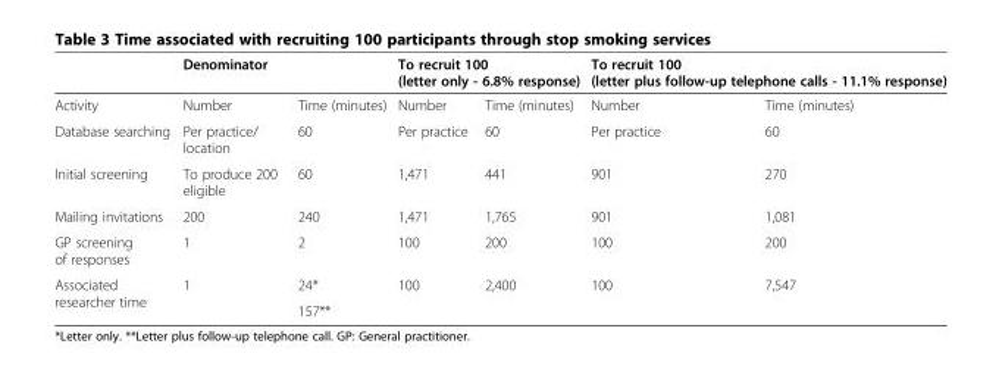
<table><thead><tr><td rowspan="2">Activity</td><td colspan="2">Denominator</td><td colspan="2">To recruit 100 (letter only - 6.8% response)</td><td colspan="2">To recruit 100 (letter plus follow-up telephone calls - 11.1% response)</td></tr><tr><td>Number</td><td>Time (minutes)</td><td>Number</td><td>Time (minutes)</td><td>Number</td><td>Time (minutes)</td></tr></thead><tbody><tr><td>Database searching</td><td>Per practice/ location</td><td>60</td><td>Per practice</td><td>60</td><td>Per practice</td><td>60</td></tr><tr><td>Initial screening</td><td>To produce 200 eligible</td><td>60</td><td>1,471</td><td>441</td><td>901</td><td>270</td></tr><tr><td>Mailing invitations</td><td>200</td><td>240</td><td>1,471</td><td>1,765</td><td>901</td><td>1,081</td></tr><tr><td>GP screening of responses</td><td>1</td><td>2</td><td>100</td><td>200</td><td>100</td><td>200</td></tr><tr><td rowspan="2">Associated researcher time</td><td rowspan="2">1</td><td>24*</td><td rowspan="2">100</td><td rowspan="2">2,400</td><td rowspan="2">100</td><td rowspan="2">7,547</td></tr><tr><td>157**</td></tr></tbody></table>